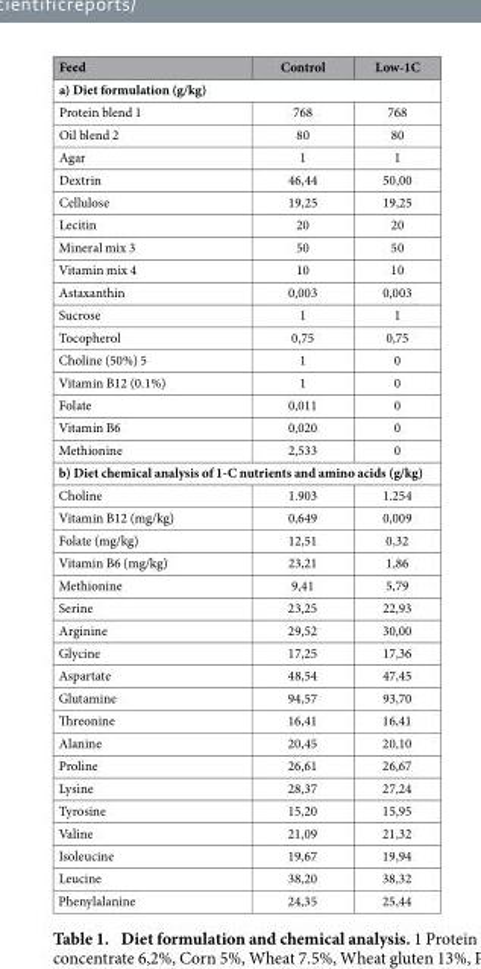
<table><thead><tr><td>Feed</td><td>Control</td><td>Low-1C</td></tr></thead><tbody><tr><td colspan="3">a) Diet formulation (g/kg)</td></tr><tr><td>Protein blend 1</td><td>768</td><td>768</td></tr><tr><td>Oil blend 2</td><td>80</td><td>80</td></tr><tr><td>Agar</td><td>1</td><td>1</td></tr><tr><td>Dextrin</td><td>46,44</td><td>50,00</td></tr><tr><td>Cellulose</td><td>19,25</td><td>19,25</td></tr><tr><td>Lecitin</td><td>20</td><td>20</td></tr><tr><td>Mineral mix 3</td><td>50</td><td>50</td></tr><tr><td>Vitamin mix 4</td><td>10</td><td>10</td></tr><tr><td>Astaxanthin</td><td>0,003</td><td>0,003</td></tr><tr><td>Sucrose</td><td>1</td><td>1</td></tr><tr><td>Tocopherol</td><td>0,75</td><td>0,75</td></tr><tr><td>Choline (50%) 5</td><td>1</td><td>0</td></tr><tr><td>Vitamin B12 (0.1%)</td><td>1</td><td>0</td></tr><tr><td>Folate</td><td>0,011</td><td>0</td></tr><tr><td>Vitamin B6</td><td>0,020</td><td>0</td></tr><tr><td>Methionine</td><td>2,533</td><td>0</td></tr><tr><td colspan="3">b) Diet chemical analysis of 1-C nutrients and amino acids (g/kg)</td></tr><tr><td>Choline</td><td>1.903</td><td>1.254</td></tr><tr><td>Vitamin B12 (mg/kg)</td><td>0,649</td><td>0,009</td></tr><tr><td>Folate (mg/kg)</td><td>12,51</td><td>0,32</td></tr><tr><td>Vitamin B6 (mg/kg)</td><td>23,21</td><td>1,86</td></tr><tr><td>Methionine</td><td>9,41</td><td>5,79</td></tr><tr><td>Serine</td><td>23,25</td><td>22,93</td></tr><tr><td>Arginine</td><td>29,52</td><td>30,00</td></tr><tr><td>Glycine</td><td>17,25</td><td>17,36</td></tr><tr><td>Aspartate</td><td>48,54</td><td>47,45</td></tr><tr><td>Glutamine</td><td>94,57</td><td>93,70</td></tr><tr><td>Threonine</td><td>16,41</td><td>16,41</td></tr><tr><td>Alanine</td><td>20,45</td><td>20,10</td></tr><tr><td>Proline</td><td>26,61</td><td>26,67</td></tr><tr><td>Lysine</td><td>28,37</td><td>27,24</td></tr><tr><td>Tyrosine</td><td>15,20</td><td>15,95</td></tr><tr><td>Valine</td><td>21,09</td><td>21,32</td></tr><tr><td>Isoleucine</td><td>19,67</td><td>19,94</td></tr><tr><td>Leucine</td><td>38,20</td><td>38,32</td></tr><tr><td>Phenylalanine</td><td>24,35</td><td>25,44</td></tr></tbody></table>